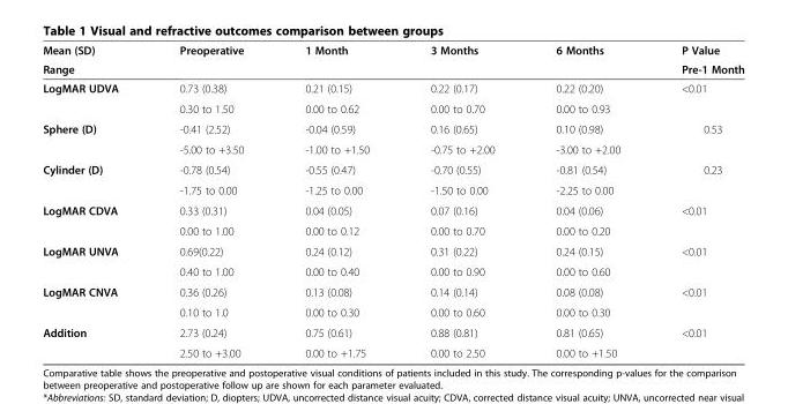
<table><thead><tr><td rowspan="2">Mean (SD) Range</td><td rowspan="2">Preoperative</td><td rowspan="2">1 Month</td><td rowspan="2">3 Months</td><td rowspan="2">6 Months</td><td rowspan="2">P Value Pre-1 Month</td></tr><tr></tr></thead><tbody><tr><td rowspan="2">LogMAR UDVA</td><td>0.73 (0.38)</td><td>0.21 (0.15)</td><td>0.22 (0.17)</td><td>0.22 (0.20)</td><td rowspan="2">&lt;0.01</td></tr><tr><td>0.30 to 1.50</td><td>0.00 to 0.62</td><td>0.00 to 0.70</td><td>0.00 to 0.93</td></tr><tr><td rowspan="2">Sphere (D)</td><td>-0.41 (2.52)</td><td>-0.04 (0.59)</td><td>0.16 (0.65)</td><td>0.10 (0.98)</td><td rowspan="2">0.53</td></tr><tr><td>-5.00 to +3.50</td><td>-1.00 to +1.50</td><td>-0.75 to +2.00</td><td>-3.00 to +2.00</td></tr><tr><td rowspan="2">Cylinder (D)</td><td>-0.78 (0.54)</td><td>-0.55 (0.47)</td><td>-0.70 (0.55)</td><td>-0.81 (0.54)</td><td rowspan="2">0.23</td></tr><tr><td>-1.75 to 0.00</td><td>-1.25 to 0.00</td><td>-1.50 to 0.00</td><td>-2.25 to 0.00</td></tr><tr><td rowspan="2">LogMAR CDVA</td><td>0.33 (0.31)</td><td>0.04 (0.05)</td><td>0.07 (0.16)</td><td>0.04 (0.06)</td><td rowspan="2">&lt;0.01</td></tr><tr><td>0.00 to 1.00</td><td>0.00 to 0.12</td><td>0.00 to 0.70</td><td>0.00 to 0.20</td></tr><tr><td rowspan="2">LogMAR UNVA</td><td>0.69(0.22)</td><td>0.24 (0.12)</td><td>0.31 (0.22)</td><td>0.24 (0.15)</td><td rowspan="2">&lt;0.01</td></tr><tr><td>0.40 to 1.00</td><td>0.00 to 0.40</td><td>0.00 to 0.90</td><td>0.00 to 0.60</td></tr><tr><td rowspan="2">LogMAR CNVA</td><td>0.36 (0.26)</td><td>0.13 (0.08)</td><td>0.14 (0.14)</td><td>0.08 (0.08)</td><td rowspan="2">&lt;0.01</td></tr><tr><td>0.10 to 1.0</td><td>0.00 to 0.30</td><td>0.00 to 0.60</td><td>0.00 to 0.30</td></tr><tr><td rowspan="2">Addition</td><td>2.73 (0.24)</td><td>0.75 (0.61)</td><td>0.88 (0.81)</td><td>0.81 (0.65)</td><td rowspan="2">&lt;0.01</td></tr><tr><td>2.50 to +3.00</td><td>0.00 to +1.75</td><td>0.00 to 2.50</td><td>0.00 to +1.50</td></tr></tbody></table>